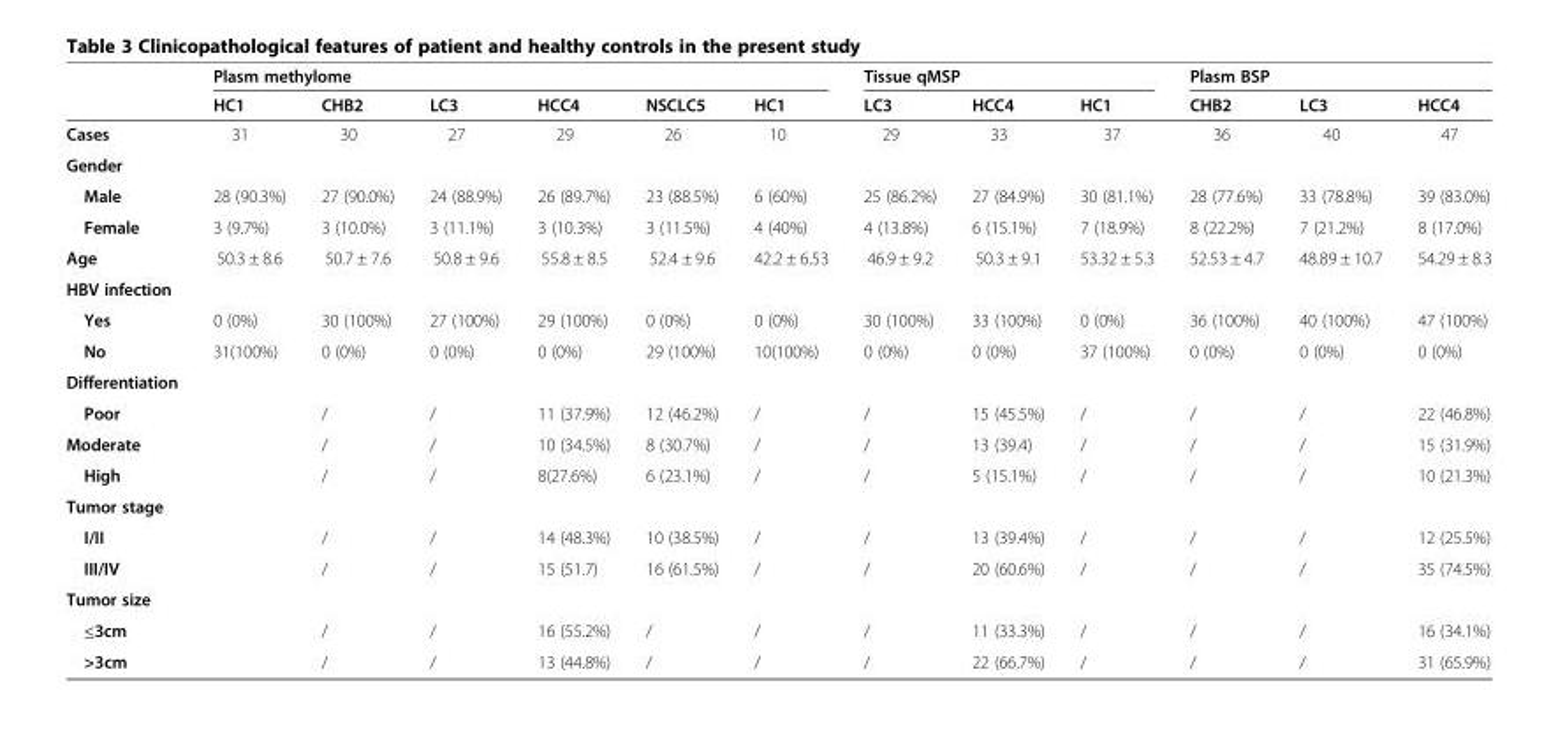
<table><thead><tr><td rowspan="2"></td><td colspan="6">Plasm methylome</td><td colspan="3">Tissue qMSP</td><td colspan="3">Plasm BSP</td></tr><tr><td>HC1</td><td>CHB2</td><td>LC3</td><td>HCC4</td><td>NSCLC5</td><td>HC1</td><td>LC3</td><td>HCC4</td><td>HC1</td><td>CHB2</td><td>LC3</td><td>HCC4</td></tr></thead><tbody><tr><td>Cases</td><td>31</td><td>30</td><td>27</td><td>29</td><td>26</td><td>10</td><td>29</td><td>33</td><td>37</td><td>36</td><td>40</td><td>47</td></tr><tr><td colspan="13">Gender</td></tr><tr><td>Male</td><td>28 (90.3%)</td><td>27 (90.0%)</td><td>24 (88.9%)</td><td>26 (89.7%)</td><td>23 (88.5%)</td><td>6 (60%)</td><td>25 (86.2%)</td><td>27 (84.9%)</td><td>30 (81.1%)</td><td>28 (77.6%)</td><td>33 (78.8%)</td><td>39 (83.0%)</td></tr><tr><td>Female</td><td>3 (9.7%)</td><td>3 (10.0%)</td><td>3 (11.1%)</td><td>3 (10.3%)</td><td>3 (11.5%)</td><td>4 (40%)</td><td>4 (13.8%)</td><td>6 (15.1%)</td><td>7 (18.9%)</td><td>8 (22.2%)</td><td>7 (21.2%)</td><td>8 (17.0%)</td></tr><tr><td>Age</td><td>50.3 ± 8.6</td><td>50.7 ± 7.6</td><td>50.8 ± 9.6</td><td>55.8 ± 8.5</td><td>52.4 ± 9.6</td><td>42.2 ± 6.53</td><td>46.9 ± 9.2</td><td>50.3 ± 9.1</td><td>53.32 ± 5.3</td><td>52.53 ± 4.7</td><td>48.89 ± 10.7</td><td>54.29 ± 8.3</td></tr><tr><td colspan="13">HBV infection</td></tr><tr><td>Yes</td><td>0 (0%)</td><td>30 (100%)</td><td>27 (100%)</td><td>29 (100%)</td><td>0 (0%)</td><td>0 (0%)</td><td>30 (100%)</td><td>33 (100%)</td><td>0 (0%)</td><td>36 (100%)</td><td>40 (100%)</td><td>47 (100%)</td></tr><tr><td>No</td><td>31(100%)</td><td>0 (0%)</td><td>0 (0%)</td><td>0 (0%)</td><td>29 (100%)</td><td>10(100%)</td><td>0 (0%)</td><td>0 (0%)</td><td>37 (100%)</td><td>0 (0%)</td><td>0 (0%)</td><td>0 (0%)</td></tr><tr><td colspan="13">Differentiation</td></tr><tr><td>Poor</td><td></td><td>/</td><td>/</td><td>11 (37.9%)</td><td>12 (46.2%)</td><td>/</td><td>/</td><td>15 (45.5%)</td><td>/</td><td>/</td><td>/</td><td>22 (46.8%)</td></tr><tr><td>Moderate</td><td></td><td>/</td><td>/</td><td>10 (34.5%)</td><td>8 (30.7%)</td><td>/</td><td>/</td><td>13 (39.4)</td><td>/</td><td>/</td><td>/</td><td>15 (31.9%)</td></tr><tr><td>High</td><td></td><td>/</td><td>/</td><td>8(27.6%)</td><td>6 (23.1%)</td><td>/</td><td>/</td><td>5 (15.1%)</td><td>/</td><td>/</td><td>/</td><td>10 (21.3%)</td></tr><tr><td colspan="13">Tumor stage</td></tr><tr><td>I/II</td><td></td><td>/</td><td>/</td><td>14 (48.3%)</td><td>10 (38.5%)</td><td>/</td><td>/</td><td>13 (39.4%)</td><td>/</td><td>/</td><td>/</td><td>12 (25.5%)</td></tr><tr><td>III/IV</td><td></td><td>/</td><td>/</td><td>15 (51.7)</td><td>16 (61.5%)</td><td>/</td><td>/</td><td>20 (60.6%)</td><td>/</td><td>/</td><td>/</td><td>35 (74.5%)</td></tr><tr><td colspan="13">Tumor size</td></tr><tr><td>≤3cm</td><td></td><td>/</td><td>/</td><td>16 (55.2%)</td><td>/</td><td>/</td><td>/</td><td>11 (33.3%)</td><td>/</td><td>/</td><td>/</td><td>16 (34.1%)</td></tr><tr><td>&gt;3cm</td><td></td><td>/</td><td>/</td><td>13 (44.8%)</td><td>/</td><td>/</td><td>/</td><td>22 (66.7%)</td><td>/</td><td>/</td><td>/</td><td>31 (65.9%)</td></tr></tbody></table>